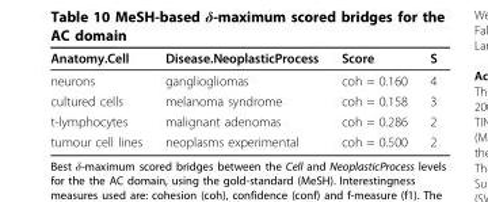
<table><thead><tr><td>Anatomy.Cell</td><td>Disease.NeoplasticProcess</td><td>Score</td><td>S</td></tr></thead><tbody><tr><td>neurons</td><td>gangliogliomas</td><td>coh = 0.160</td><td>4</td></tr><tr><td>cultured cells</td><td>melanoma syndrome</td><td>coh = 0.158</td><td>3</td></tr><tr><td>t-lymphocytes</td><td>malignant adenomas</td><td>coh = 0.286</td><td>2</td></tr><tr><td>tumour cell lines</td><td>neoplasms experimental</td><td>coh = 0.500</td><td>2</td></tr></tbody></table>